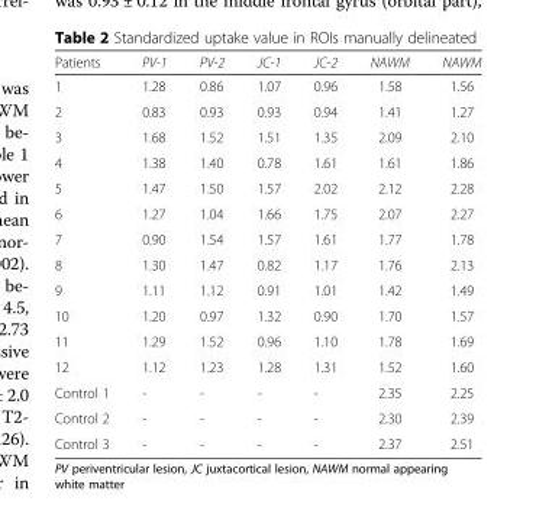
<table><thead><tr><td>Patients</td><td>PV-1</td><td>PV-2</td><td>JC-1</td><td>JC-2</td><td>NAWM</td><td>NAWM</td></tr></thead><tbody><tr><td>1</td><td>1.28</td><td>0.86</td><td>1.07</td><td>0.96</td><td>1.58</td><td>1.56</td></tr><tr><td>2</td><td>0.83</td><td>0.93</td><td>0.93</td><td>0.94</td><td>1.41</td><td>1.27</td></tr><tr><td>3</td><td>1.68</td><td>1.52</td><td>1.51</td><td>1.35</td><td>2.09</td><td>2.10</td></tr><tr><td>4</td><td>1.38</td><td>1.40</td><td>0.78</td><td>1.61</td><td>1.61</td><td>1.86</td></tr><tr><td>5</td><td>1.47</td><td>1.50</td><td>1.57</td><td>2.02</td><td>2.12</td><td>2.28</td></tr><tr><td>6</td><td>1.27</td><td>1.04</td><td>1.66</td><td>1.75</td><td>2.07</td><td>2.27</td></tr><tr><td>7</td><td>0.90</td><td>1.54</td><td>1.57</td><td>1.61</td><td>1.77</td><td>1.78</td></tr><tr><td>8</td><td>1.30</td><td>1.47</td><td>0.82</td><td>1.17</td><td>1.76</td><td>2.13</td></tr><tr><td>9</td><td>1.11</td><td>1.12</td><td>0.91</td><td>1.01</td><td>1.42</td><td>1.49</td></tr><tr><td>10</td><td>1.20</td><td>0.97</td><td>1.32</td><td>0.90</td><td>1.70</td><td>1.57</td></tr><tr><td>11</td><td>1.29</td><td>1.52</td><td>0.96</td><td>1.10</td><td>1.78</td><td>1.69</td></tr><tr><td>12</td><td>1.12</td><td>1.23</td><td>1.28</td><td>1.31</td><td>1.52</td><td>1.60</td></tr><tr><td>Control 1</td><td>-</td><td>-</td><td>-</td><td>-</td><td>2.35</td><td>2.25</td></tr><tr><td>Control 2</td><td>-</td><td>-</td><td>-</td><td>-</td><td>2.30</td><td>2.39</td></tr><tr><td>Control 3</td><td>-</td><td>-</td><td>-</td><td>-</td><td>2.37</td><td>2.51</td></tr></tbody></table>